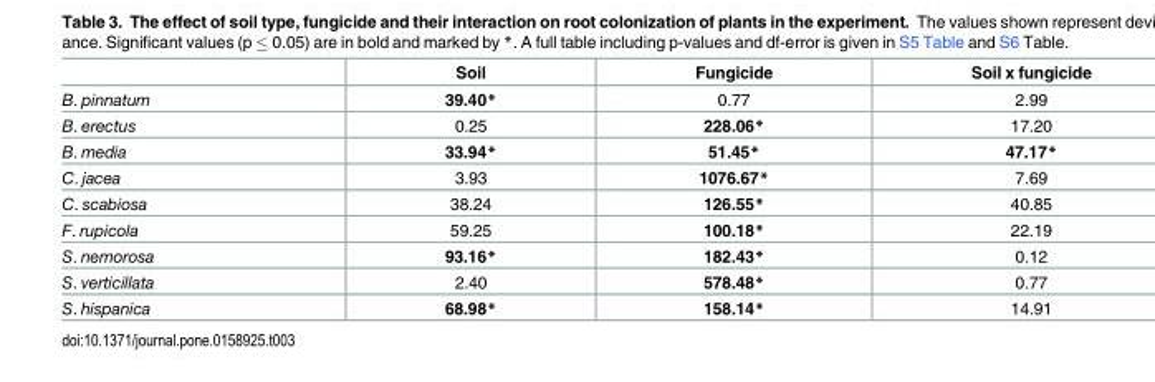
<table><thead><tr><td></td><td>Soil</td><td>Fungicide</td><td>Soil x fungicide</td></tr></thead><tbody><tr><td>B. pinnatum</td><td>39.40*</td><td>0.77</td><td>2.99</td></tr><tr><td>B. erectus</td><td>0.25</td><td>228.06*</td><td>17.20</td></tr><tr><td>B. media</td><td>33.94*</td><td>51.45*</td><td>47.17*</td></tr><tr><td>C. jacea</td><td>3.93</td><td>1076.67*</td><td>7.69</td></tr><tr><td>C. scabiosa</td><td>38.24</td><td>126.55*</td><td>40.85</td></tr><tr><td>F. rupicola</td><td>59.25</td><td>100.18*</td><td>22.19</td></tr><tr><td>S. nemorosa</td><td>93.16*</td><td>182.43*</td><td>0.12</td></tr><tr><td>S. verticillata</td><td>2.40</td><td>578.48*</td><td>0.77</td></tr><tr><td>S. hispanica</td><td>68.98*</td><td>158.14*</td><td>14.91</td></tr></tbody></table>